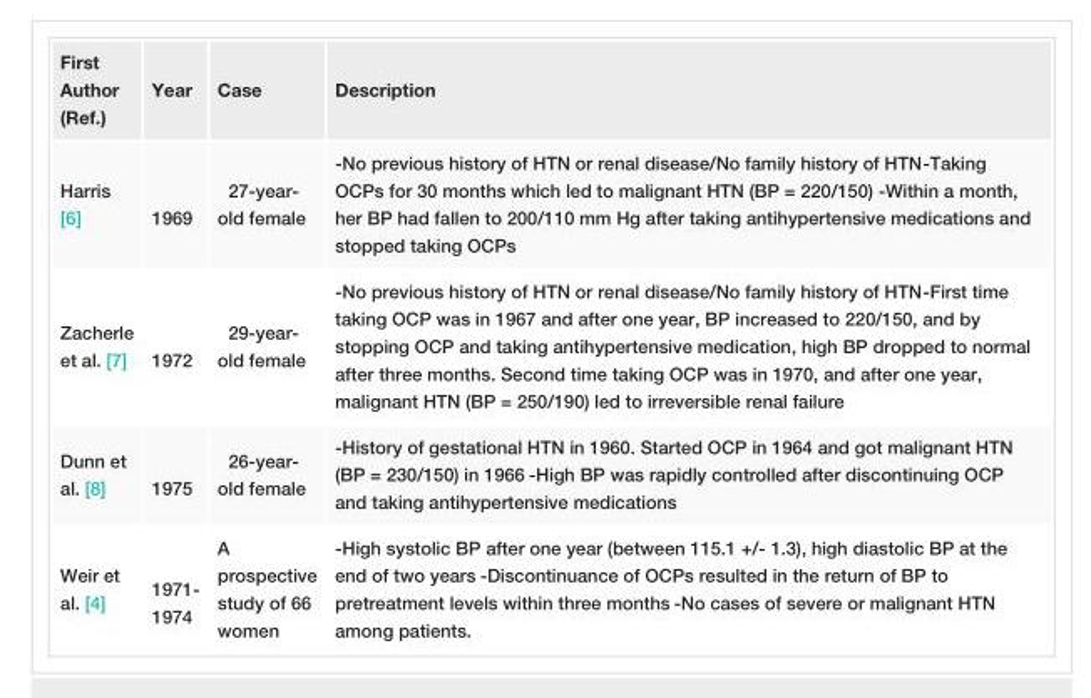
<table><tbody><tr><td>First Author (Ref.)</td><td>Year</td><td>Case</td><td>Description</td></tr><tr><td>Harris [6]</td><td>1969</td><td>27-year- old female</td><td>-No previous history of HTN or renal disease/No family history of HTN -Taking OCPs for 30 months which led to malignant HTN (BP = 220/150) -Within a month, her BP had fallen to 200/110 mm Hg after taking antihypertensive medications and stopped taking OCPs</td></tr><tr><td>Zacherle et al. [7]</td><td>1972</td><td>29-year- old female</td><td>-No previous history of HTN or renal disease/No family history of HTN -First time taking OCP was in 1967 and after one year, BP increased to 220/150, and by stopping OCP and taking antihypertensive medication, high BP dropped to normal after three months. Second time taking OCP was in 1970, and after one year, malignant HTN (BP = 250/190) led to irreversible renal failure</td></tr><tr><td>Dunn et al. [8]</td><td>1975</td><td>26-year- old female</td><td>-History of gestational HTN in 1960. Started OCP in 1964 and got malignant HTN (BP = 230/150) in 1966 -High BP was rapidly controlled after discontinuing OCP and taking antihypertensive medications</td></tr><tr><td>Weir et al. [4]</td><td>1971- 1974</td><td>A prospective study of 66 women</td><td>-High systolic BP after one year (between 115.1 +/- 1.3), high diastolic BP at the end of two years -Discontinuance of OCPs resulted in the return of BP to pretreatment levels within three months -No cases of severe or malignant HTN among patients.</td></tr></tbody></table>